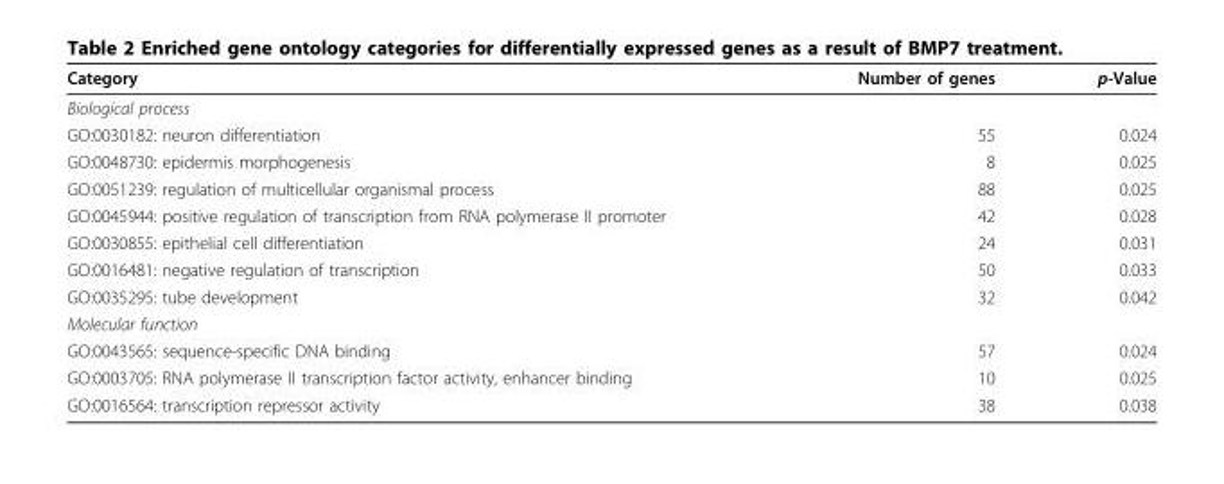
<table><thead><tr><td>Category</td><td>Number of genes</td><td>p-Value</td></tr></thead><tbody><tr><td colspan="3">Biological process</td></tr><tr><td>GO:0030182: neuron differentiation</td><td>55</td><td>0.024</td></tr><tr><td>GO:0048730: epidermis morphogenesis</td><td>8</td><td>0.025</td></tr><tr><td>GO:0051239: regulation of multicellular organismal process</td><td>88</td><td>0.025</td></tr><tr><td>GO:0045944: positive regulation of transcription from RNA polymerase II promoter</td><td>42</td><td>0.028</td></tr><tr><td>GO:0030855: epithelial cell differentiation</td><td>24</td><td>0.031</td></tr><tr><td>GO:0016481: negative regulation of transcription</td><td>50</td><td>0.033</td></tr><tr><td>GO:0035295: tube development</td><td>32</td><td>0.042</td></tr><tr><td colspan="3">Molecular function</td></tr><tr><td>GO:0043565: sequence-specific DNA binding</td><td>57</td><td>0.024</td></tr><tr><td>GO:0003705: RNA polymerase II transcription factor activity, enhancer binding</td><td>10</td><td>0.025</td></tr><tr><td>GO:0016564: transcription repressor activity</td><td>38</td><td>0.038</td></tr></tbody></table>